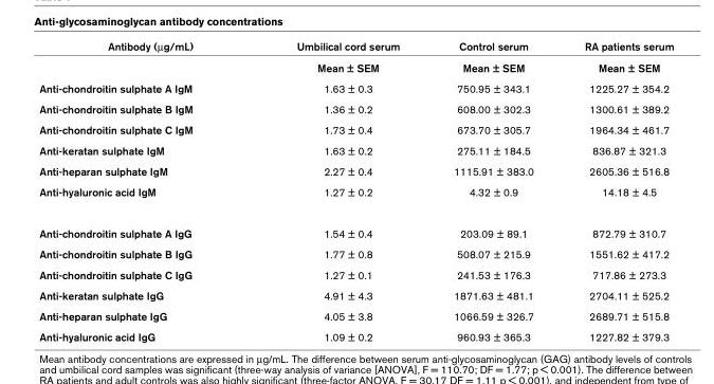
<table><thead><tr><td>Antibody (μg/mL)</td><td>Umbilical cord serum</td><td>Control serum</td><td>RA patients serum</td></tr></thead><tbody><tr><td></td><td>Mean ± SEM</td><td>Mean ± SEM</td><td>Mean ± SEM</td></tr><tr><td>Anti-chondroitin sulphate A IgM</td><td>1.63 ± 0.3</td><td>750.95 ± 343.1</td><td>1225.27 ± 354.2</td></tr><tr><td>Anti-chondroitin sulphate B IgM</td><td>1.36 ± 0.2</td><td>608.00 ± 302.3</td><td>1300.61 ± 389.2</td></tr><tr><td>Anti-chondroitin sulphate C IgM</td><td>1.73 ± 0.4</td><td>673.70 ± 305.7</td><td>1964.34 ± 461.7</td></tr><tr><td>Anti-keratan sulphate IgM</td><td>1.63 ± 0.2</td><td>275.11 ± 184.5</td><td>836.87 ± 321.3</td></tr><tr><td>Anti-heparan sulphate IgM</td><td>2.27 ± 0.4</td><td>1115.91 ± 383.0</td><td>2605.36 ± 516.8</td></tr><tr><td>Anti-hyaluronic acid IgM</td><td>1.27 ± 0.2</td><td>4.32 ± 0.9</td><td>14.18 ± 4.5</td></tr><tr><td>Anti-chondroitin sulphate A IgG</td><td>1.54 ± 0.4</td><td>203.09 ± 89.1</td><td>872.79 ± 310.7</td></tr><tr><td>Anti-chondroitin sulphate B IgG</td><td>1.77 ± 0.8</td><td>508.07 ± 215.9</td><td>1551.62 ± 417.2</td></tr><tr><td>Anti-chondroitin sulphate C IgG</td><td>1.27 ± 0.1</td><td>241.53 ± 176.3</td><td>717.86 ± 273.3</td></tr><tr><td>Anti-keratan sulphate IgG</td><td>4.91 ± 4.3</td><td>1871.63 ± 481.1</td><td>2704.11 ± 525.2</td></tr><tr><td>Anti-heparan sulphate IgG</td><td>4.05 ± 3.8</td><td>1066.59 ± 326.7</td><td>2689.71 ± 515.8</td></tr><tr><td>Anti-hyaluronic acid IgG</td><td>1.09 ± 0.2</td><td>960.93 ± 365.3</td><td>1227.82 ± 379.3</td></tr></tbody></table>